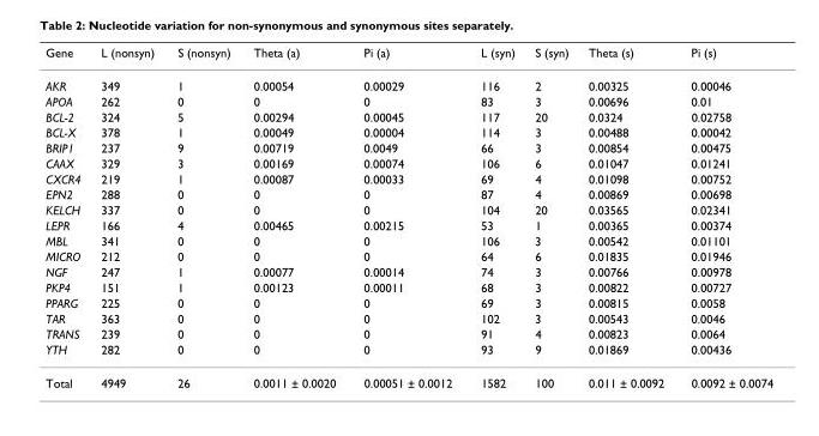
<table><thead><tr><td>Gene</td><td>L (nonsyn)</td><td>S (nonsyn)</td><td>Theta (a)</td><td>Pi (a)</td><td>L (syn)</td><td>S (syn)</td><td>Theta (s)</td><td>Pi (s)</td></tr></thead><tbody><tr><td>AKR</td><td>349</td><td>1</td><td>0.00054</td><td>0.00029</td><td>116</td><td>2</td><td>0.00325</td><td>0.00046</td></tr><tr><td>APOA</td><td>262</td><td>0</td><td>0</td><td>0</td><td>83</td><td>3</td><td>0.00696</td><td>0.01</td></tr><tr><td>BCL-2</td><td>324</td><td>5</td><td>0.00294</td><td>0.00045</td><td>117</td><td>20</td><td>0.0324</td><td>0.02758</td></tr><tr><td>BCL-X</td><td>378</td><td>1</td><td>0.00049</td><td>0.00004</td><td>114</td><td>3</td><td>0.00488</td><td>0.00042</td></tr><tr><td>BRIP1</td><td>237</td><td>9</td><td>0.00719</td><td>0.0049</td><td>66</td><td>3</td><td>0.00854</td><td>0.00475</td></tr><tr><td>CAAX</td><td>329</td><td>3</td><td>0.00169</td><td>0.00074</td><td>106</td><td>6</td><td>0.01047</td><td>0.01241</td></tr><tr><td>CXCR4</td><td>219</td><td>1</td><td>0.00087</td><td>0.00033</td><td>69</td><td>4</td><td>0.01098</td><td>0.00752</td></tr><tr><td>EPN2</td><td>288</td><td>0</td><td>0</td><td>0</td><td>87</td><td>4</td><td>0.00869</td><td>0.00698</td></tr><tr><td>KELCH</td><td>337</td><td>0</td><td>0</td><td>0</td><td>104</td><td>20</td><td>0.03565</td><td>0.02341</td></tr><tr><td>LEPR</td><td>166</td><td>4</td><td>0.00465</td><td>0.00215</td><td>53</td><td>1</td><td>0.00365</td><td>0.00374</td></tr><tr><td>MBL</td><td>341</td><td>0</td><td>0</td><td>0</td><td>106</td><td>3</td><td>0.00542</td><td>0.01101</td></tr><tr><td>MICRO</td><td>212</td><td>0</td><td>0</td><td>0</td><td>64</td><td>6</td><td>0.01835</td><td>0.01946</td></tr><tr><td>NGF</td><td>247</td><td>1</td><td>0.00077</td><td>0.00014</td><td>74</td><td>3</td><td>0.00766</td><td>0.00978</td></tr><tr><td>PKP4</td><td>151</td><td>1</td><td>0.00123</td><td>0.00011</td><td>68</td><td>3</td><td>0.00822</td><td>0.00727</td></tr><tr><td>PPARG</td><td>225</td><td>0</td><td>0</td><td>0</td><td>69</td><td>3</td><td>0.00815</td><td>0.0058</td></tr><tr><td>TAR</td><td>363</td><td>0</td><td>0</td><td>0</td><td>102</td><td>3</td><td>0.00543</td><td>0.0046</td></tr><tr><td>TRANS</td><td>239</td><td>0</td><td>0</td><td>0</td><td>91</td><td>4</td><td>0.00823</td><td>0.0064</td></tr><tr><td>YTH</td><td>282</td><td>0</td><td>0</td><td>0</td><td>93</td><td>9</td><td>0.01869</td><td>0.00436</td></tr><tr><td>Total</td><td>4949</td><td>26</td><td>0.0011 ± 0.0020</td><td>0.00051 ± 0.0012</td><td>1582</td><td>100</td><td>0.011 ± 0.0092</td><td>0.0092 ± 0.0074</td></tr></tbody></table>